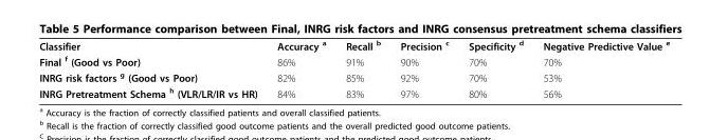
<table><tbody><tr><td>Classifier</td><td>Accuracy <sup>a</sup></td><td>Recall <sup>b</sup></td><td>Precision <sup>c</sup></td><td>Specificity <sup>d</sup></td><td>Negative Predictive Value <sup>e</sup></td></tr><tr><td>Final <sup>f</sup> (Good vs Poor)</td><td>86%</td><td>91%</td><td>90%</td><td>70%</td><td>70%</td></tr><tr><td>INRG risk factors <sup>g</sup> (Good vs Poor)</td><td>82%</td><td>85%</td><td>92%</td><td>70%</td><td>53%</td></tr><tr><td>INRG Pretreatment Schema <sup>h</sup> (VLR/LR/IR vs HR)</td><td>84%</td><td>83%</td><td>97%</td><td>80%</td><td>56%</td></tr></tbody></table>